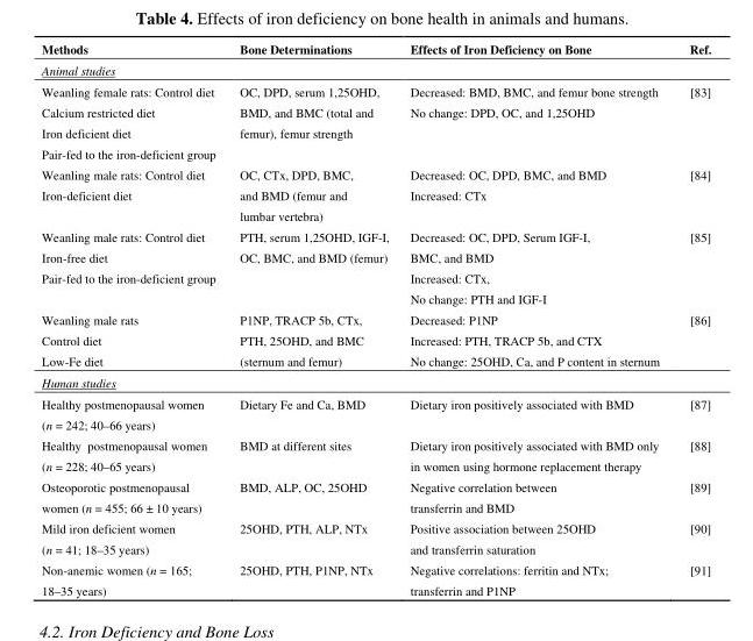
<table><thead><tr><td>Methods</td><td>Bone Determinations</td><td>Effects of Iron Deficiency on Bone</td><td>Ref.</td></tr></thead><tbody><tr><td colspan="4">Animal studies</td></tr><tr><td>Weanling female rats: Control diet Calcium restricted diet Iron deficient diet Pair-fed to the iron-deficient group</td><td>OC, DPD, serum 1,25OHD, BMD, and BMC (total and femur), femur strength</td><td>Decreased: BMD, BMC, and femur bone strength No change: DPD, OC, and 1,25OHD</td><td>[83]</td></tr><tr><td>Weanling male rats: Control diet Iron-deficient diet</td><td>OC, CTx, DPD, BMC, and BMD (femur and lumbar vertebra)</td><td>Decreased: OC, DPD, BMC, and BMD Increased: CTx</td><td>[84]</td></tr><tr><td>Weanling male rats: Control diet Iron-free diet Pair-fed to the iron-deficient group</td><td>PTH, serum 1,25OHD, IGF-I, OC, BMC, and BMD (femur)</td><td>Decreased: OC, DPD, Serum IGF-I, BMC, and BMD Increased: CTx, No change: PTH and IGF-I</td><td>[85]</td></tr><tr><td>Weanling male rats Control diet Low-Fe diet</td><td>P1NP, TRACP 5b, CTx, PTH, 25OHD, and BMC (sternum and femur)</td><td>Decreased: P1NP Increased: PTH, TRACP 5b, and CTX No change: 25OHD, Ca, and P content in sternum</td><td>[86]</td></tr><tr><td colspan="4">Human studies</td></tr><tr><td>Healthy postmenopausal women (n = 242; 40–66 years)</td><td>Dietary Fe and Ca, BMD</td><td>Dietary iron positively associated with BMD</td><td>[87]</td></tr><tr><td>Healthy postmenopausal women (n = 228; 40–65 years)</td><td>BMD at different sites</td><td>Dietary iron positively associated with BMD only in women using hormone replacement therapy</td><td>[88]</td></tr><tr><td>Osteoporotic postmenopausal women (n = 455; 66 ± 10 years)</td><td>BMD, ALP, OC, 25OHD</td><td>Negative correlation between transferrin and BMD</td><td>[89]</td></tr><tr><td>Mild iron deficient women (n = 41; 18–35 years)</td><td>25OHD, PTH, ALP, NTx</td><td>Positive association between 25OHD and transferrin saturation</td><td>[90]</td></tr><tr><td>Non-anemic women (n = 165; 18–35 years)</td><td>25OHD, PTH, P1NP, NTx</td><td>Negative correlations: ferritin and NTx; transferrin and P1NP</td><td>[91]</td></tr></tbody></table>